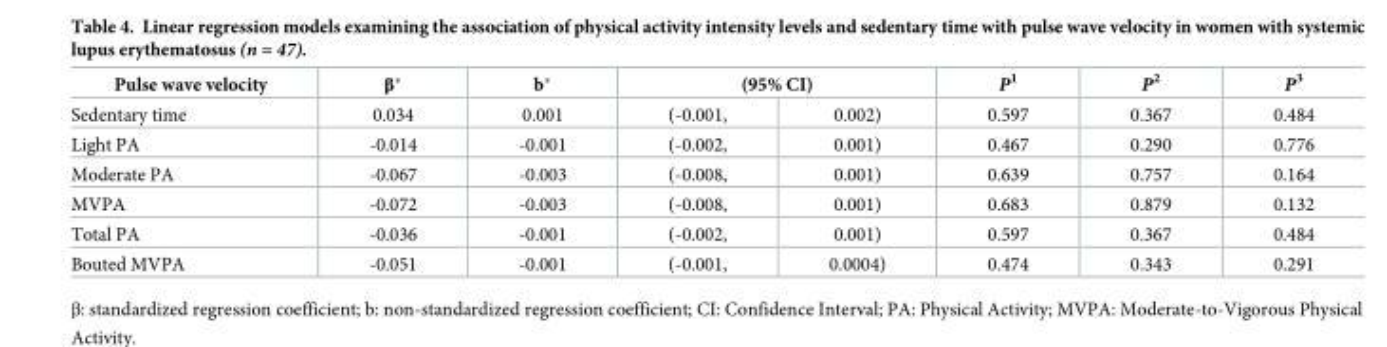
<table><thead><tr><td rowspan="2">Pulse wave velocity Sedentary time</td><td rowspan="2">β* 0.034</td><td rowspan="2">b* 0.001</td><td colspan="2">(95% CI)</td><td rowspan="2">P<sup>1</sup> 0.597</td><td rowspan="2">P<sup>2</sup> 0.367</td><td rowspan="2">P<sup>3</sup> 0.484</td></tr><tr><td>(-0.001,</td><td>0.002)</td></tr></thead><tbody><tr><td>Light PA</td><td>-0.014</td><td>-0.001</td><td>(-0.002,</td><td>0.001)</td><td>0.467</td><td>0.290</td><td>0.776</td></tr><tr><td>Moderate PA</td><td>-0.067</td><td>-0.003</td><td>(-0.008,</td><td>0.001)</td><td>0.639</td><td>0.757</td><td>0.164</td></tr><tr><td>MVPA</td><td>-0.072</td><td>-0.003</td><td>(-0.008,</td><td>0.001)</td><td>0.683</td><td>0.879</td><td>0.132</td></tr><tr><td>Total PA</td><td>-0.036</td><td>-0.001</td><td>(-0.002,</td><td>0.001)</td><td>0.597</td><td>0.367</td><td>0.484</td></tr><tr><td>Bouted MVPA</td><td>-0.051</td><td>-0.001</td><td>(-0.001,</td><td>0.0004)</td><td>0.474</td><td>0.343</td><td>0.291</td></tr></tbody></table>